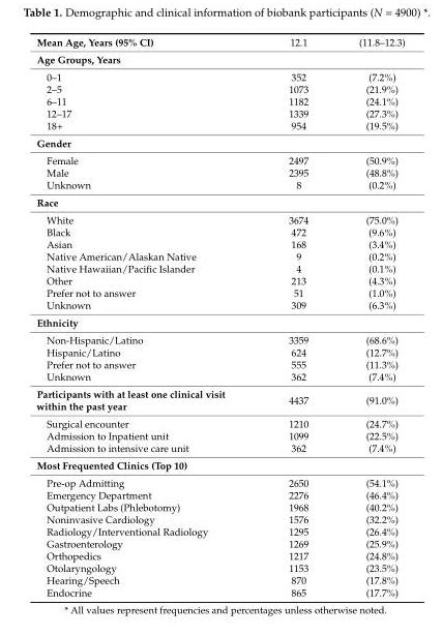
<table><tbody><tr><td>Mean Age, Years (95% CI)</td><td>12.1</td><td>(11.8–12.3)</td></tr><tr><td colspan="3">Age Groups, Years</td></tr><tr><td>0–1</td><td>352</td><td>(7.2%)</td></tr><tr><td>2–5</td><td>1073</td><td>(21.9%)</td></tr><tr><td>6–11</td><td>1182</td><td>(24.1%)</td></tr><tr><td>12–17</td><td>1339</td><td>(27.3%)</td></tr><tr><td>18+</td><td>954</td><td>(19.5%)</td></tr><tr><td colspan="3">Gender</td></tr><tr><td>Female</td><td>2497</td><td>(50.9%)</td></tr><tr><td>Male</td><td>2395</td><td>(48.8%)</td></tr><tr><td>Unknown</td><td>8</td><td>(0.2%)</td></tr><tr><td colspan="3">Race</td></tr><tr><td>White</td><td>3674</td><td>(75.0%)</td></tr><tr><td>Black</td><td>472</td><td>(9.6%)</td></tr><tr><td>Asian</td><td>168</td><td>(3.4%)</td></tr><tr><td>Native American/Alaskan Native</td><td>9</td><td>(0.2%)</td></tr><tr><td>Native Hawaiian/Pacific Islander</td><td>4</td><td>(0.1%)</td></tr><tr><td>Other</td><td>213</td><td>(4.3%)</td></tr><tr><td>Prefer not to answer</td><td>51</td><td>(1.0%)</td></tr><tr><td>Unknown</td><td>309</td><td>(6.3%)</td></tr><tr><td colspan="3">Ethnicity</td></tr><tr><td>Non-Hispanic/Latino</td><td>3359</td><td>(68.6%)</td></tr><tr><td>Hispanic/Latino</td><td>624</td><td>(12.7%)</td></tr><tr><td>Prefer not to answer</td><td>555</td><td>(11.3%)</td></tr><tr><td>Unknown</td><td>362</td><td>(7.4%)</td></tr><tr><td>Participants with at least one clinical visit within the past year</td><td>4437</td><td>(91.0%)</td></tr><tr><td>Surgical encounter</td><td>1210</td><td>(24.7%)</td></tr><tr><td>Admission to Inpatient unit</td><td>1099</td><td>(22.5%)</td></tr><tr><td>Admission to intensive care unit</td><td>362</td><td>(7.4%)</td></tr><tr><td colspan="3">Most Frequented Clinics (Top 10)</td></tr><tr><td>Pre-op Admitting</td><td>2650</td><td>(54.1%)</td></tr><tr><td>Emergency Department</td><td>2276</td><td>(46.4%)</td></tr><tr><td>Outpatient Labs (Phlebotomy)</td><td>1968</td><td>(40.2%)</td></tr><tr><td>Noninvasive Cardiology</td><td>1576</td><td>(32.2%)</td></tr><tr><td>Radiology/Interventional Radiology</td><td>1295</td><td>(26.4%)</td></tr><tr><td>Gastroenterology</td><td>1269</td><td>(25.9%)</td></tr><tr><td>Orthopedics</td><td>1217</td><td>(24.8%)</td></tr><tr><td>Otolaryngology</td><td>1153</td><td>(23.5%)</td></tr><tr><td>Hearing/Speech</td><td>870</td><td>(17.8%)</td></tr><tr><td>Endocrine</td><td>865</td><td>(17.7%)</td></tr></tbody></table>